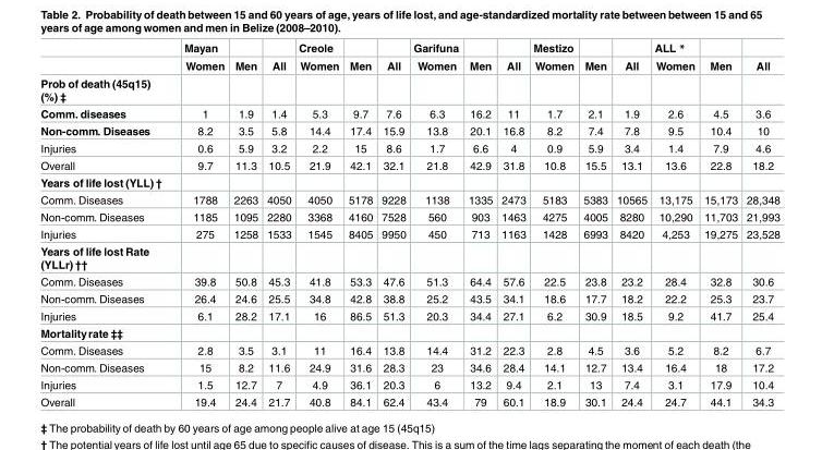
<table><thead><tr><td rowspan="2"></td><td rowspan="2">Mayan Women</td><td rowspan="2">Men</td><td rowspan="2">All</td><td rowspan="2">Creole Women</td><td rowspan="2">Men</td><td rowspan="2">All</td><td rowspan="2">Garifuna Women</td><td rowspan="2">Men</td><td rowspan="2">All</td><td rowspan="2">Mestizo Women</td><td rowspan="2">Men</td><td rowspan="2">All</td><td rowspan="2">ALL * Women</td><td rowspan="2">Men</td><td rowspan="2">All</td></tr><tr></tr></thead><tbody><tr><td colspan="16">Prob of death (45q15) (%) ‡</td></tr><tr><td>Comm. diseases</td><td>1</td><td>1.9</td><td>1.4</td><td>5.3</td><td>9.7</td><td>7.6</td><td>6.3</td><td>16.2</td><td>11</td><td>1.7</td><td>2.1</td><td>1.9</td><td>2.6</td><td>4.5</td><td>3.6</td></tr><tr><td>Non-comm. Diseases</td><td>8.2</td><td>3.5</td><td>5.8</td><td>14.4</td><td>17.4</td><td>15.9</td><td>13.8</td><td>20.1</td><td>16.8</td><td>8.2</td><td>7.4</td><td>7.8</td><td>9.5</td><td>10.4</td><td>10</td></tr><tr><td>Injuries</td><td>0.6</td><td>5.9</td><td>3.2</td><td>2.2</td><td>15</td><td>8.6</td><td>1.7</td><td>6.6</td><td>4</td><td>0.9</td><td>5.9</td><td>3.4</td><td>1.4</td><td>7.9</td><td>4.6</td></tr><tr><td>Overall</td><td>9.7</td><td>11.3</td><td>10.5</td><td>21.9</td><td>42.1</td><td>32.1</td><td>21.8</td><td>42.9</td><td>31.8</td><td>10.8</td><td>15.5</td><td>13.1</td><td>13.6</td><td>22.8</td><td>18.2</td></tr><tr><td colspan="16">Years of life lost (YLL) †</td></tr><tr><td>Comm. Diseases</td><td>1788</td><td>2263</td><td>4050</td><td>4050</td><td>5178</td><td>9228</td><td>1138</td><td>1335</td><td>2473</td><td>5183</td><td>5383</td><td>10565</td><td>13,175</td><td>15,173</td><td>28,348</td></tr><tr><td>Non-comm. Diseases</td><td>1185</td><td>1095</td><td>2280</td><td>3368</td><td>4160</td><td>7528</td><td>560</td><td>903</td><td>1463</td><td>4275</td><td>4005</td><td>8280</td><td>10,290</td><td>11,703</td><td>21,993</td></tr><tr><td>Injuries</td><td>275</td><td>1258</td><td>1533</td><td>1545</td><td>8405</td><td>9950</td><td>450</td><td>713</td><td>1163</td><td>1428</td><td>6993</td><td>8420</td><td>4,253</td><td>19,275</td><td>23,528</td></tr><tr><td colspan="16">Years of life lost Rate (YLLr) ††</td></tr><tr><td>Comm. Diseases</td><td>39.8</td><td>50.8</td><td>45.3</td><td>41.8</td><td>53.3</td><td>47.6</td><td>51.3</td><td>64.4</td><td>57.6</td><td>22.5</td><td>23.8</td><td>23.2</td><td>28.4</td><td>32.8</td><td>30.6</td></tr><tr><td>Non-comm. Diseases</td><td>26.4</td><td>24.6</td><td>25.5</td><td>34.8</td><td>42.8</td><td>38.8</td><td>25.2</td><td>43.5</td><td>34.1</td><td>18.6</td><td>17.7</td><td>18.2</td><td>22.2</td><td>25.3</td><td>23.7</td></tr><tr><td>Injuries</td><td>6.1</td><td>28.2</td><td>17.1</td><td>16</td><td>86.5</td><td>51.3</td><td>20.3</td><td>34.4</td><td>27.1</td><td>6.2</td><td>30.9</td><td>18.5</td><td>9.2</td><td>41.7</td><td>25.4</td></tr><tr><td colspan="16">Mortalityrate ‡‡</td></tr><tr><td>Comm. Diseases</td><td>2.8</td><td>3.5</td><td>3.1</td><td>11</td><td>16.4</td><td>13.8</td><td>14.4</td><td>31.2</td><td>22.3</td><td>2.8</td><td>4.5</td><td>3.6</td><td>5.2</td><td>8.2</td><td>6.7</td></tr><tr><td>Non-comm. Diseases</td><td>15</td><td>8.2</td><td>11.6</td><td>24.9</td><td>31.6</td><td>28.3</td><td>23</td><td>34.6</td><td>28.4</td><td>14.1</td><td>12.7</td><td>13.4</td><td>16.4</td><td>18</td><td>17.2</td></tr><tr><td>Injuries</td><td>1.5</td><td>12.7</td><td>7</td><td>4.9</td><td>36.1</td><td>20.3</td><td>6</td><td>13.2</td><td>9.4</td><td>2.1</td><td>13</td><td>7.4</td><td>3.1</td><td>17.9</td><td>10.4</td></tr><tr><td>Overall</td><td>19.4</td><td>24.4</td><td>21.7</td><td>40.8</td><td>84.1</td><td>62.4</td><td>43.4</td><td>79</td><td>60.1</td><td>18.9</td><td>30.1</td><td>24.4</td><td>24.7</td><td>44.1</td><td>34.3</td></tr></tbody></table>